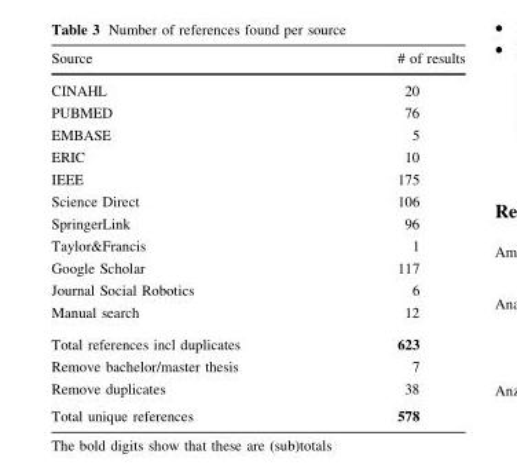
<table><thead><tr><td>Source</td><td># of results</td></tr></thead><tbody><tr><td>CINAHL</td><td>20</td></tr><tr><td>PUBMED</td><td>76</td></tr><tr><td>EMBASE</td><td>5</td></tr><tr><td>ERIC</td><td>10</td></tr><tr><td>IEEE</td><td>175</td></tr><tr><td>Science Direct</td><td>106</td></tr><tr><td>SpringerLink</td><td>96</td></tr><tr><td>Taylor&amp;Francis</td><td>1</td></tr><tr><td>Google Scholar</td><td>117</td></tr><tr><td>Journal Social Robotics</td><td>6</td></tr><tr><td>Manual search</td><td>12</td></tr><tr><td>Total references incl duplicates</td><td>623</td></tr><tr><td>Remove bachelor/master thesis</td><td>7</td></tr><tr><td>Remove duplicates</td><td>38</td></tr><tr><td>Total unique references</td><td>578</td></tr></tbody></table>